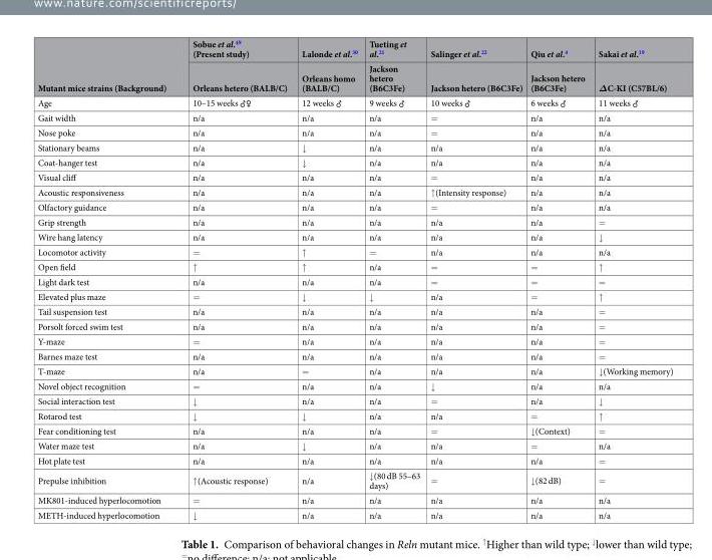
<table><thead><tr><td rowspan="2">Mutant mice strains (Background)</td><td rowspan="2">Sobue et al.<sup>49</sup> (Present study) Orleans hetero (BALB/C)</td><td rowspan="2">Lalonde et al.<sup>30</sup> Orleans homo (BALB/C)</td><td rowspan="2">Tueting et al.<sup>21</sup> Jackson hetero (B6C3Fe)</td><td rowspan="2">Salinger et al.<sup>22</sup> Jackson hetero (B6C3Fe)</td><td rowspan="2">Qiu et al.<sup>4</sup> Jackson hetero (B6C3Fe)</td><td rowspan="2">Sakai et al.<sup>19</sup> ΔC-KI (C57BL/6)</td></tr><tr></tr></thead><tbody><tr><td>Age</td><td>10–15 weeks ♂♀</td><td>12 weeks ♂</td><td>9 weeks ♂</td><td>10 weeks ♂</td><td>6 weeks ♂</td><td>11 weeks ♂</td></tr><tr><td>Gait width</td><td>n/a</td><td>n/a</td><td>n/a</td><td>=</td><td>n/a</td><td>n/a</td></tr><tr><td>Nose poke</td><td>n/a</td><td>n/a</td><td>n/a</td><td>=</td><td>n/a</td><td>n/a</td></tr><tr><td>Stationary beams</td><td>n/a</td><td>↓</td><td>n/a</td><td>n/a</td><td>n/a</td><td>n/a</td></tr><tr><td>Coat-hanger test</td><td>n/a</td><td>↓</td><td>n/a</td><td>n/a</td><td>n/a</td><td>n/a</td></tr><tr><td>Visual cliff</td><td>n/a</td><td>n/a</td><td>n/a</td><td>=</td><td>n/a</td><td>n/a</td></tr><tr><td>Acoustic responsiveness</td><td>n/a</td><td>n/a</td><td>n/a</td><td>↑(Intensity response)</td><td>n/a</td><td>n/a</td></tr><tr><td>Olfactory guidance</td><td>n/a</td><td>n/a</td><td>n/a</td><td>=</td><td>n/a</td><td>n/a</td></tr><tr><td>Grip strength</td><td>n/a</td><td>n/a</td><td>n/a</td><td>n/a</td><td>n/a</td><td>=</td></tr><tr><td>Wire hang latency</td><td>n/a</td><td>n/a</td><td>n/a</td><td>n/a</td><td>n/a</td><td>↓</td></tr><tr><td>Locomotor activity</td><td>=</td><td>↑</td><td>=</td><td>n/a</td><td>n/a</td><td>n/a</td></tr><tr><td>Open field</td><td>↑</td><td>↑</td><td>n/a</td><td>=</td><td>=</td><td>↑</td></tr><tr><td>Light dark test</td><td>n/a</td><td>n/a</td><td>n/a</td><td>=</td><td>=</td><td>=</td></tr><tr><td>Elevated plus maze</td><td>=</td><td>↓</td><td>↓</td><td>n/a</td><td>=</td><td>↑</td></tr><tr><td>Tail suspension test</td><td>n/a</td><td>n/a</td><td>n/a</td><td>n/a</td><td>n/a</td><td>=</td></tr><tr><td>Porsolt forced swim test</td><td>n/a</td><td>n/a</td><td>n/a</td><td>n/a</td><td>n/a</td><td>=</td></tr><tr><td>Y-maze</td><td>=</td><td>n/a</td><td>n/a</td><td>n/a</td><td>n/a</td><td>=</td></tr><tr><td>Barnes maze test</td><td>n/a</td><td>n/a</td><td>n/a</td><td>n/a</td><td>n/a</td><td>=</td></tr><tr><td>T-maze</td><td>n/a</td><td>=</td><td>n/a</td><td>n/a</td><td>n/a</td><td>↓(Working memory)</td></tr><tr><td>Novel object recognition</td><td>=</td><td>n/a</td><td>n/a</td><td>↓</td><td>n/a</td><td>n/a</td></tr><tr><td>Social interaction test</td><td>↓</td><td>n/a</td><td>n/a</td><td>=</td><td>n/a</td><td>↓</td></tr><tr><td>Rotarod test</td><td>↓</td><td>↓</td><td>n/a</td><td>n/a</td><td>=</td><td>↑</td></tr><tr><td>Fear conditioning test</td><td>n/a</td><td>n/a</td><td>n/a</td><td>=</td><td>↓(Context)</td><td>=</td></tr><tr><td>Water maze test</td><td>n/a</td><td>↓</td><td>n/a</td><td>n/a</td><td>=</td><td>n/a</td></tr><tr><td>Hot plate test</td><td>n/a</td><td>n/a</td><td>n/a</td><td>n/a</td><td>n/a</td><td>=</td></tr><tr><td>Prepulse inhibition</td><td>↑(Acoustic response)</td><td>n/a</td><td>↓(80 dB 55–63 days)</td><td>=</td><td>↓(82 dB)</td><td>=</td></tr><tr><td>MK801-induced hyperlocomotion</td><td>=</td><td>n/a</td><td>n/a</td><td>n/a</td><td>n/a</td><td>n/a</td></tr><tr><td>METH-induced hyperlocomotion</td><td>↓</td><td>n/a</td><td>n/a</td><td>n/a</td><td>n/a</td><td>n/a</td></tr></tbody></table>